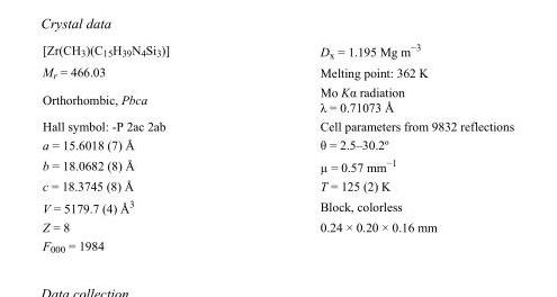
<table><tbody><tr><td>[Zr(CH<sub>3</sub>)(C<sub>15</sub>H<sub>39</sub>N<sub>4</sub>Si<sub>3</sub>)]</td><td>D<sub>x</sub> = 1.195 Mg m<sup>−3</sup></td></tr><tr><td>M<sub>r</sub> = 466.03</td><td>Melting point: 362 K</td></tr><tr><td>Orthorhombic, Pbca</td><td>Mo Kα radiation λ = 0.71073 Å</td></tr><tr><td>Hall symbol: -P 2ac 2ab</td><td>Cell parameters from 9832 reflections</td></tr><tr><td>a = 15.6018 (7) Å</td><td>θ = 2.5–30.2º</td></tr><tr><td>b = 18.0682 (8) Å</td><td>µ = 0.57 mm<sup>−1</sup></td></tr><tr><td>c = 18.3745 (8) Å</td><td>T = 125 (2) K</td></tr><tr><td>V = 5179.7 (4) Å<sup>3</sup></td><td>Block, colorless</td></tr><tr><td>Z = 8</td><td>0.24 × 0.20 × 0.16 mm</td></tr><tr><td>F<sub>000</sub> = 1984</td><td></td></tr></tbody></table>